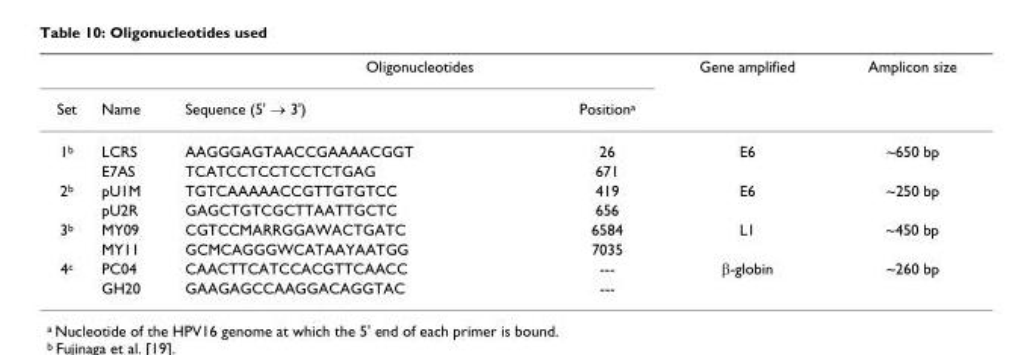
<table><thead><tr><td rowspan="2">Set</td><td rowspan="2">Name</td><td colspan="2">Oligonucleotides</td><td rowspan="2">Gene amplified</td><td rowspan="2">Amplicon size</td></tr><tr><td>Sequence (5&#x27; → 3&#x27;)</td><td>Position<sup>a</sup></td></tr></thead><tbody><tr><td rowspan="2">1<sup>b</sup></td><td>LCRS</td><td>AAGGGAGTAACCGAAAACGGT</td><td>26</td><td>E6</td><td>~650 bp</td></tr><tr><td>E7AS</td><td>TCATCCTCCTCCTCTGAG</td><td>671</td><td></td><td></td></tr><tr><td rowspan="2">2<sup>b</sup></td><td>pU1M</td><td>TGTCAAAAACCGTTGTGTCC</td><td>419</td><td>E6</td><td>~250 bp</td></tr><tr><td>pU2R</td><td>GAGCTGTCGCTTAATTGCTC</td><td>656</td><td></td><td></td></tr><tr><td rowspan="2">3<sup>b</sup></td><td>MY09</td><td>CGTCCMARRGGAWACTGATC</td><td>6584</td><td>L1</td><td>~450 bp</td></tr><tr><td>MY11</td><td>GCMCAGGGWCATAAYAATGG</td><td>7035</td><td></td><td></td></tr><tr><td rowspan="2">4<sup>c</sup></td><td>PC04</td><td>CAACTTCATCCACGTTCAACC</td><td>---</td><td>β-globin</td><td>~260 bp</td></tr><tr><td>GH20</td><td>GAAGAGCCAAGGACAGGTAC</td><td>---</td><td></td><td></td></tr></tbody></table>